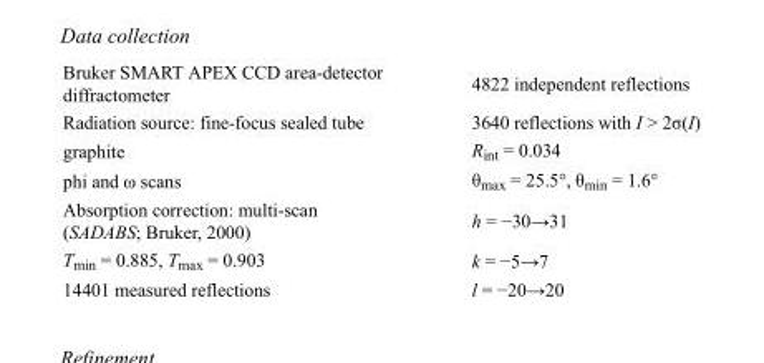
<table><tbody><tr><td>Bruker SMART APEX CCD area-detector diffractometer</td><td>4822 independent reflections</td></tr><tr><td>Radiation source: fine-focus sealed tube</td><td>3640 reflections with I &gt; 2σ(I)</td></tr><tr><td>graphite</td><td>R<sub>int</sub> = 0.034</td></tr><tr><td>phi and ω scans</td><td>θ<sub>max</sub> = 25.5°, θ<sub>min</sub> = 1.6°</td></tr><tr><td>Absorption correction: multi-scan (SADABS; Bruker, 2000)</td><td>h = −30→31</td></tr><tr><td>T<sub>min</sub> = 0.885, T<sub>max</sub> = 0.903</td><td>k = −5→7</td></tr><tr><td>14401 measured reflections</td><td>l = −20→20</td></tr></tbody></table>